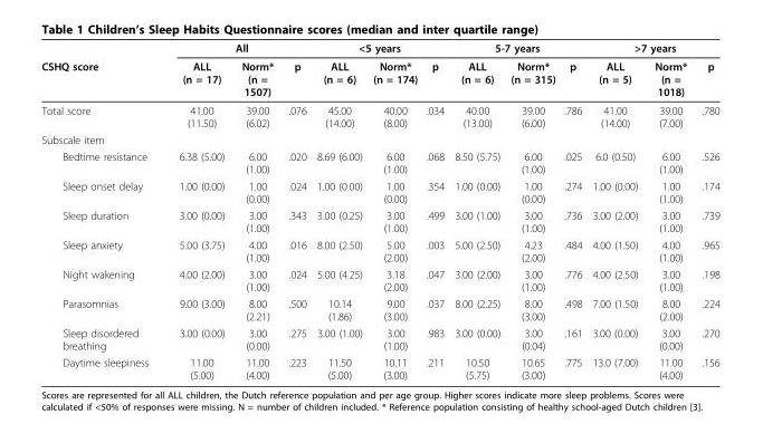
<table><thead><tr><td rowspan="2">CSHQ score</td><td colspan="3">All</td><td colspan="3">&lt;5 years</td><td colspan="3">5-7 years</td><td colspan="3">&gt;7 years</td></tr><tr><td>ALL (n = 17)</td><td>Norm* (n = 1507)</td><td>p</td><td>ALL (n = 6)</td><td>Norm* (n = 174)</td><td>p</td><td>ALL (n = 6)</td><td>Norm* (n = 315)</td><td>p</td><td>ALL (n = 5)</td><td>Norm* (n = 1018)</td><td>p</td></tr></thead><tbody><tr><td>Total score</td><td>41.00 (11.50)</td><td>39.00 (6.02)</td><td>.076</td><td>45.00 (14.00)</td><td>40.00 (8.00)</td><td>.034</td><td>40.00 (13.00)</td><td>39.00 (6.00)</td><td>.786</td><td>41.00 (14.00)</td><td>39.00 (7.00)</td><td>.780</td></tr><tr><td colspan="13">Subscale item</td></tr><tr><td>Bedtime resistance</td><td>6.38 (5.00)</td><td>6.00 (1.00)</td><td>.020</td><td>8.69 (6.00)</td><td>6.00 (1.00)</td><td>.068</td><td>8.50 (5.75)</td><td>6.00 (1.00)</td><td>.025</td><td>6.0 (0.50)</td><td>6.00 (1.00)</td><td>.526</td></tr><tr><td>Sleep onset delay</td><td>1.00 (0.00)</td><td>1.00 (0.00)</td><td>.024</td><td>1.00 (0.00)</td><td>1.00 (0.00)</td><td>.354</td><td>1.00 (0.00)</td><td>1.00 (0.00)</td><td>.274</td><td>1.00 (0.00)</td><td>1.00 (1.00)</td><td>.174</td></tr><tr><td>Sleep duration</td><td>3.00 (0.00)</td><td>3.00 (1.00)</td><td>.343</td><td>3.00 (0.25)</td><td>3.00 (1.00)</td><td>.499</td><td>3.00 (1.00)</td><td>3.00 (1.00)</td><td>.736</td><td>3.00 (2.00)</td><td>3.00 (1.00)</td><td>.739</td></tr><tr><td>Sleep anxiety</td><td>5.00 (3.75)</td><td>4.00 (1.00)</td><td>.016</td><td>8.00 (2.50)</td><td>5.00 (2.00)</td><td>.003</td><td>5.00 (2.50)</td><td>4.23 (2.00)</td><td>.484</td><td>4.00 (1.50)</td><td>4.00 (1.00)</td><td>.965</td></tr><tr><td>Night wakening</td><td>4.00 (2.00)</td><td>3.00 (1.00)</td><td>.024</td><td>5.00 (4.25)</td><td>3.18 (2.00)</td><td>.047</td><td>3.00 (2.00)</td><td>3.00 (1.00)</td><td>.776</td><td>4.00 (2.50)</td><td>3.00 (1.00)</td><td>.198</td></tr><tr><td>Parasomnias</td><td>9.00 (3.00)</td><td>8.00 (2.21)</td><td>.500</td><td>10.14 (1.86)</td><td>9.00 (3.00)</td><td>.037</td><td>8.00 (2.25)</td><td>8.00 (3.00)</td><td>.498</td><td>7.00 (1.50)</td><td>8.00 (2.00)</td><td>.224</td></tr><tr><td>Sleep disordered breathing</td><td>3.00 (0.00)</td><td>3.00 (0.00)</td><td>.275</td><td>3.00 (1.00)</td><td>3.00 (1.00)</td><td>.983</td><td>3.00 (0.00)</td><td>3.00 (0.04)</td><td>.161</td><td>3.00 (0.00)</td><td>3.00 (0.00)</td><td>.270</td></tr><tr><td>Daytime sleepiness</td><td>11.00 (5.00)</td><td>11.00 (4.00)</td><td>.223</td><td>11.50 (5.00)</td><td>10.11 (3.00)</td><td>.211</td><td>10.50 (5.75)</td><td>10.65 (3.00)</td><td>.775</td><td>13.0 (7.00)</td><td>11.00 (4.00)</td><td>.156</td></tr></tbody></table>